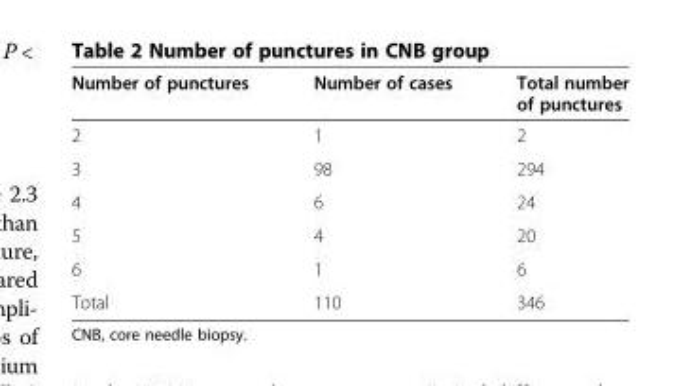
<table><thead><tr><td>Number of punctures</td><td>Number of cases</td><td>Total number of punctures</td></tr></thead><tbody><tr><td>2</td><td>1</td><td>2</td></tr><tr><td>3</td><td>98</td><td>294</td></tr><tr><td>4</td><td>6</td><td>24</td></tr><tr><td>5</td><td>4</td><td>20</td></tr><tr><td>6</td><td>1</td><td>6</td></tr><tr><td>Total</td><td>110</td><td>346</td></tr></tbody></table>